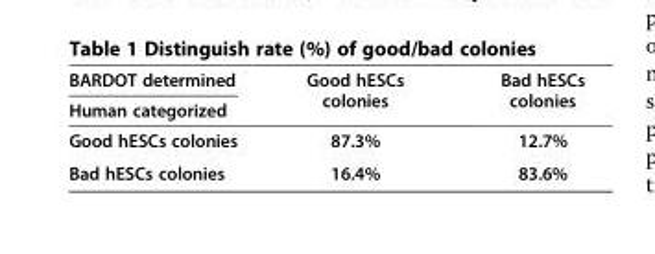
<table><thead><tr><td rowspan="2">BARDOT determined Human categorized</td><td rowspan="2">Good hESCs colonies</td><td rowspan="2">Bad hESCs colonies</td></tr><tr></tr></thead><tbody><tr><td>Good hESCs colonies</td><td>87.3%</td><td>12.7%</td></tr><tr><td>Bad hESCs colonies</td><td>16.4%</td><td>83.6%</td></tr></tbody></table>